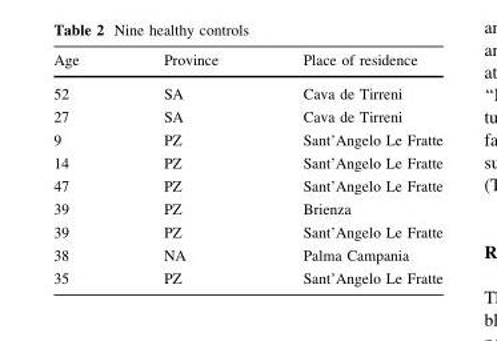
<table><thead><tr><td>Age</td><td>Province</td><td>Place of residence</td></tr></thead><tbody><tr><td>52</td><td>SA</td><td>Cava de Tirreni</td></tr><tr><td>27</td><td>SA</td><td>Cava de Tirreni</td></tr><tr><td>9</td><td>PZ</td><td>Sant’Angelo Le Fratte</td></tr><tr><td>14</td><td>PZ</td><td>Sant’Angelo Le Fratte</td></tr><tr><td>47</td><td>PZ</td><td>Sant’Angelo Le Fratte</td></tr><tr><td>39</td><td>PZ</td><td>Brienza</td></tr><tr><td>39</td><td>PZ</td><td>Sant’Angelo Le Fratte</td></tr><tr><td>38</td><td>NA</td><td>Palma Campania</td></tr><tr><td>35</td><td>PZ</td><td>Sant’Angelo Le Fratte</td></tr></tbody></table>